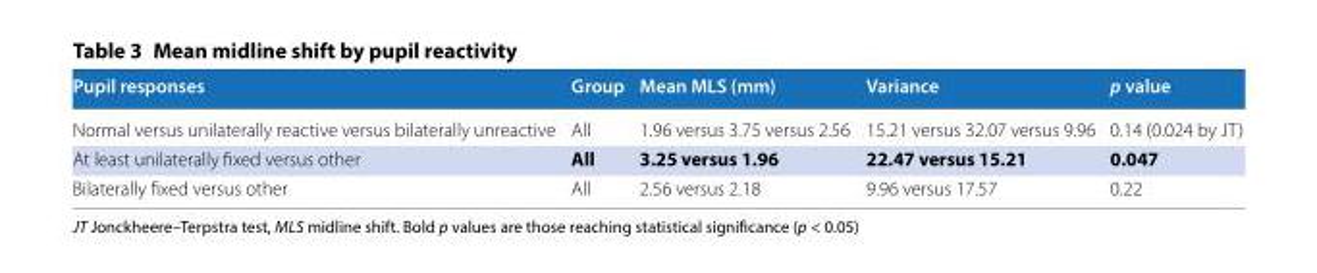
<table><thead><tr><td>Pupil responses</td><td>Group</td><td>Mean MLS (mm)</td><td>Variance</td><td>p value</td></tr></thead><tbody><tr><td>Normal versus unilaterally reactive versus bilaterally unreactive</td><td>All</td><td>1.96 versus 3.75 versus 2.56</td><td>15.21 versus 32.07 versus 9.96</td><td>0.14 (0.024 by JT)</td></tr><tr><td>At least unilaterally fixed versus other</td><td>All</td><td>3.25 versus 1.96</td><td>22.47 versus 15.21</td><td>0.047</td></tr><tr><td>Bilaterally fixed versus other</td><td>All</td><td>2.56 versus 2.18</td><td>9.96 versus 17.57</td><td>0.22</td></tr></tbody></table>